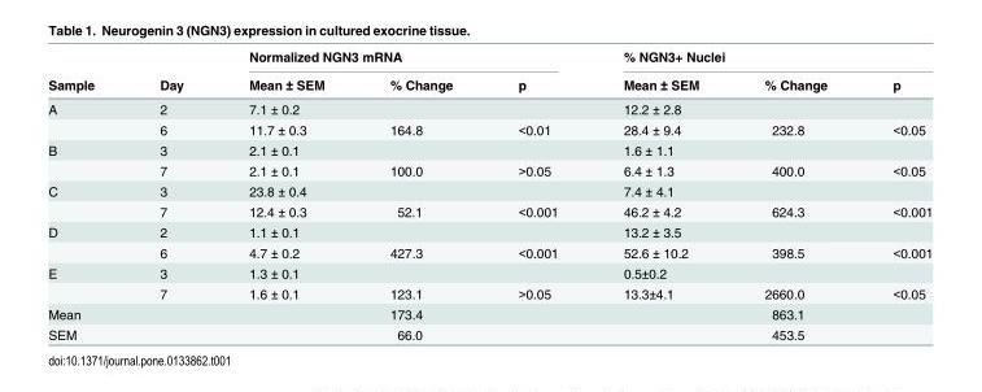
<table><thead><tr><td rowspan="2">Sample</td><td rowspan="2">Day</td><td colspan="3">Normalized NGN3 mRNA</td><td colspan="3">% NGN3+ Nuclei</td></tr><tr><td>Mean ± SEM</td><td>% Change</td><td>p</td><td>Mean ± SEM</td><td>% Change</td><td>p</td></tr></thead><tbody><tr><td rowspan="2">A</td><td>2</td><td>7.1 ± 0.2</td><td></td><td></td><td>12.2 ± 2.8</td><td></td><td></td></tr><tr><td>6</td><td>11.7 ± 0.3</td><td>164.8</td><td>&lt;0.01</td><td>28.4 ± 9.4</td><td>232.8</td><td>&lt;0.05</td></tr><tr><td rowspan="2">B</td><td>3</td><td>2.1 ± 0.1</td><td></td><td></td><td>1.6 ± 1.1</td><td></td><td></td></tr><tr><td>7</td><td>2.1 ± 0.1</td><td>100.0</td><td>&gt;0.05</td><td>6.4 ± 1.3</td><td>400.0</td><td>&lt;0.05</td></tr><tr><td rowspan="2">C</td><td>3</td><td>23.8 ± 0.4</td><td></td><td></td><td>7.4 ± 4.1</td><td></td><td></td></tr><tr><td>7</td><td>12.4 ± 0.3</td><td>52.1</td><td>&lt;0.001</td><td>46.2 ± 4.2</td><td>624.3</td><td>&lt;0.001</td></tr><tr><td rowspan="2">D</td><td>2</td><td>1.1 ± 0.1</td><td></td><td></td><td>13.2 ± 3.5</td><td></td><td></td></tr><tr><td>6</td><td>4.7 ± 0.2</td><td>427.3</td><td>&lt;0.001</td><td>52.6 ± 10.2</td><td>398.5</td><td>&lt;0.001</td></tr><tr><td rowspan="2">E</td><td>3</td><td>1.3 ± 0.1</td><td></td><td></td><td>0.5±0.2</td><td></td><td></td></tr><tr><td>7</td><td>1.6 ± 0.1</td><td>123.1</td><td>&gt;0.05</td><td>13.3±4.1</td><td>2660.0</td><td>&lt;0.05</td></tr><tr><td>Mean</td><td></td><td></td><td>173.4</td><td></td><td></td><td>863.1</td><td></td></tr><tr><td>SEM</td><td></td><td></td><td>66.0</td><td></td><td></td><td>453.5</td><td></td></tr></tbody></table>